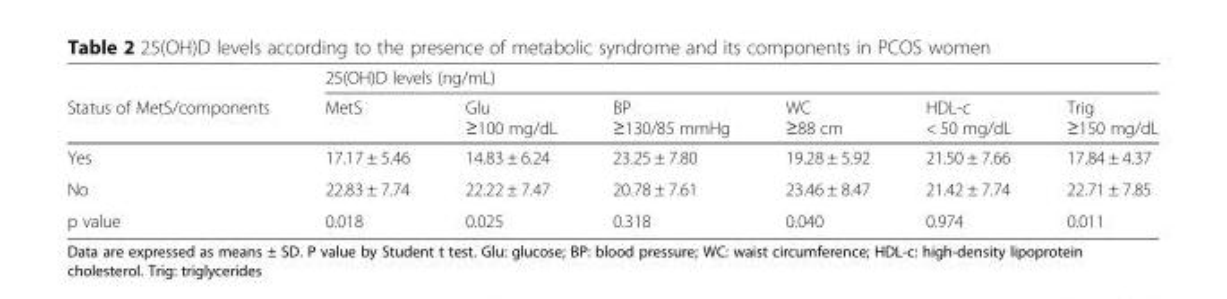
<table><thead><tr><td rowspan="2">Status of MetS/components</td><td colspan="6">25(OH)D levels (ng/mL)</td></tr><tr><td>MetS</td><td>Glu ≥100 mg/dL</td><td>BP ≥130/85 mmHg</td><td>WC ≥88 cm</td><td>HDL-c &lt; 50 mg/dL</td><td>Trig ≥150 mg/dL</td></tr></thead><tbody><tr><td>Yes</td><td>17.17 ± 5.46</td><td>14.83 ± 6.24</td><td>23.25 ± 7.80</td><td>19.28 ± 5.92</td><td>21.50 ± 7.66</td><td>17.84 ± 4.37</td></tr><tr><td>No</td><td>22.83 ± 7.74</td><td>22.22 ± 7.47</td><td>20.78 ± 7.61</td><td>23.46 ± 8.47</td><td>21.42 ± 7.74</td><td>22.71 ± 7.85</td></tr><tr><td>p value</td><td>0.018</td><td>0.025</td><td>0.318</td><td>0.040</td><td>0.974</td><td>0.011</td></tr></tbody></table>